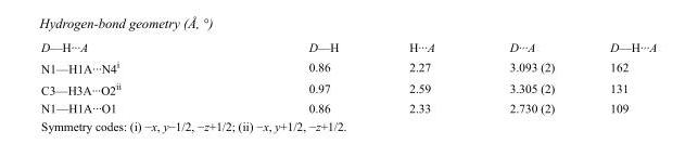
<table><tbody><tr><td>D—H···A</td><td>D—H</td><td>H···A</td><td>D···A</td><td>D—H···A</td></tr><tr><td>N1—H1A···N4<sup>i</sup></td><td>0.86</td><td>2.27</td><td>3.093 (2)</td><td>162</td></tr><tr><td>C3—H3A···O2<sup>ii</sup></td><td>0.97</td><td>2.59</td><td>3.305 (2)</td><td>131</td></tr><tr><td>N1—H1A···O1</td><td>0.86</td><td>2.33</td><td>2.730 (2)</td><td>109</td></tr></tbody></table>